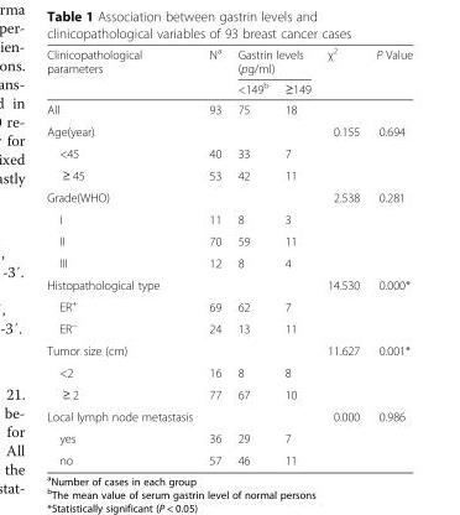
<table><thead><tr><td rowspan="2">Clinicopathological parameters</td><td rowspan="2">N<sup>a</sup></td><td colspan="2">Gastrin levels (pg/ml)</td><td rowspan="2">χ<sup>2</sup></td><td rowspan="2">P Value</td></tr><tr><td>&lt;149<sup>b</sup></td><td>≥149</td></tr></thead><tbody><tr><td>All</td><td>93</td><td>75</td><td>18</td><td></td><td></td></tr><tr><td>Age(year)</td><td></td><td></td><td></td><td>0.155</td><td>0.694</td></tr><tr><td>&lt;45</td><td>40</td><td>33</td><td>7</td><td></td><td></td></tr><tr><td>≥ 45</td><td>53</td><td>42</td><td>11</td><td></td><td></td></tr><tr><td>Grade(WHO)</td><td></td><td></td><td></td><td>2.538</td><td>0.281</td></tr><tr><td>I</td><td>11</td><td>8</td><td>3</td><td></td><td></td></tr><tr><td>II</td><td>70</td><td>59</td><td>11</td><td></td><td></td></tr><tr><td>III</td><td>12</td><td>8</td><td>4</td><td></td><td></td></tr><tr><td>Histopathological type</td><td></td><td></td><td></td><td>14.530</td><td>0.000*</td></tr><tr><td>ER<sup>+</sup></td><td>69</td><td>62</td><td>7</td><td></td><td></td></tr><tr><td>ER<sup>−</sup></td><td>24</td><td>13</td><td>11</td><td></td><td></td></tr><tr><td>Tumor size (cm)</td><td></td><td></td><td></td><td>11.627</td><td>0.001*</td></tr><tr><td>&lt;2</td><td>16</td><td>8</td><td>8</td><td></td><td></td></tr><tr><td>≥ 2</td><td>77</td><td>67</td><td>10</td><td></td><td></td></tr><tr><td>Local lymph node metastasis</td><td></td><td></td><td></td><td>0.000</td><td>0.986</td></tr><tr><td>yes</td><td>36</td><td>29</td><td>7</td><td></td><td></td></tr><tr><td>no</td><td>57</td><td>46</td><td>11</td><td></td><td></td></tr></tbody></table>